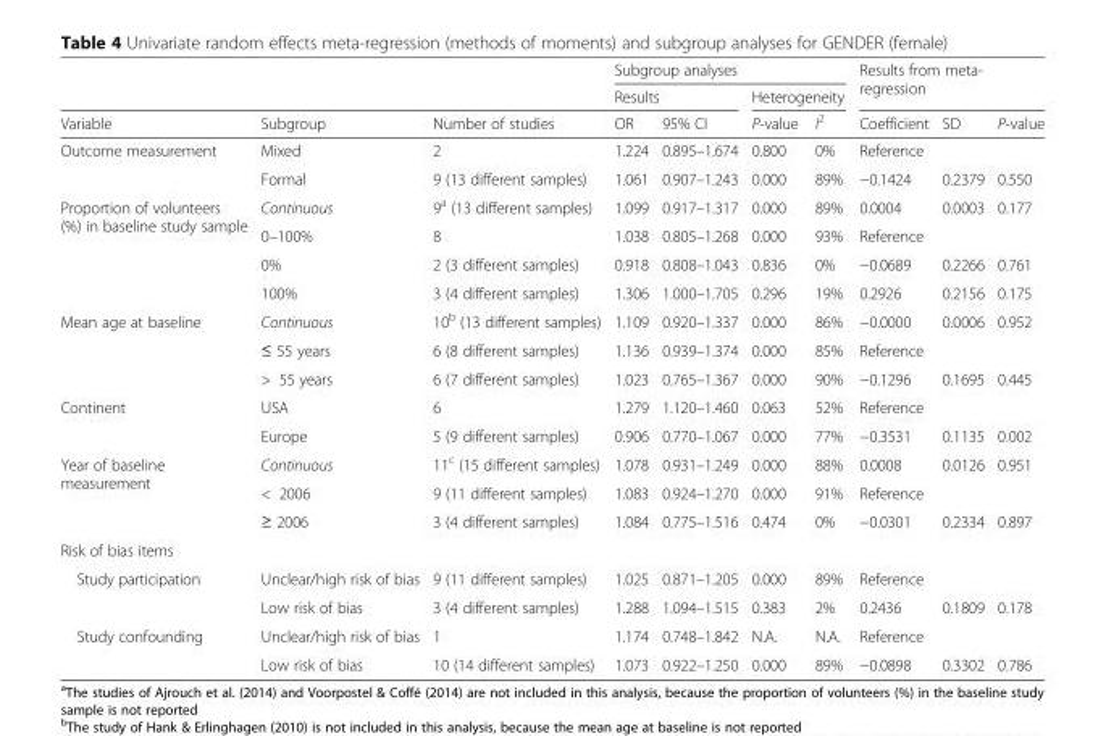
<table><thead><tr><td rowspan="3">Variable</td><td rowspan="3">Subgroup</td><td rowspan="3">Number of studies</td><td colspan="4">Subgroup analyses</td><td rowspan="2" colspan="3">Results from meta- regression</td></tr><tr><td colspan="2">Results</td><td colspan="2">Heterogeneity</td></tr><tr><td>OR</td><td>95% CI</td><td>P-value</td><td>I<sup>2</sup></td><td>Coefficient</td><td>SD</td><td>P-value</td></tr></thead><tbody><tr><td rowspan="2">Outcome measurement</td><td>Mixed</td><td>2</td><td>1.224</td><td>0.895–1.674</td><td>0.800</td><td>0%</td><td colspan="3">Reference</td></tr><tr><td>Formal</td><td>9 (13 different samples)</td><td>1.061</td><td>0.907–1.243</td><td>0.000</td><td>89%</td><td>−0.1424</td><td>0.2379</td><td>0.550</td></tr><tr><td rowspan="4">Proportion of volunteers (%) in baseline study sample</td><td>Continuous</td><td>9<sup>a</sup> (13 different samples)</td><td>1.099</td><td>0.917–1.317</td><td>0.000</td><td>89%</td><td>0.0004</td><td>0.0003</td><td>0.177</td></tr><tr><td>0–100%</td><td>8</td><td>1.038</td><td>0.805–1.268</td><td>0.000</td><td>93%</td><td>Reference</td><td></td><td></td></tr><tr><td>0%</td><td>2 (3 different samples)</td><td>0.918</td><td>0.808–1.043</td><td>0.836</td><td>0%</td><td>−0.0689</td><td>0.2266</td><td>0.761</td></tr><tr><td>100%</td><td>3 (4 different samples)</td><td>1.306</td><td>1.000–1.705</td><td>0.296</td><td>19%</td><td>0.2926</td><td>0.2156</td><td>0.175</td></tr><tr><td rowspan="3">Mean age at baseline</td><td>Continuous</td><td>10<sup>b</sup> (13 different samples)</td><td>1.109</td><td>0.920–1.337</td><td>0.000</td><td>86%</td><td>−0.0000</td><td>0.0006</td><td>0.952</td></tr><tr><td>≤ 55 years</td><td>6 (8 different samples)</td><td>1.136</td><td>0.939–1.374</td><td>0.000</td><td>85%</td><td>Reference</td><td></td><td></td></tr><tr><td>&gt; 55 years</td><td>6 (7 different samples)</td><td>1.023</td><td>0.765–1.367</td><td>0.000</td><td>90%</td><td>−0.1296</td><td>0.1695</td><td>0.445</td></tr><tr><td rowspan="2">Continent</td><td>USA</td><td>6</td><td>1.279</td><td>1.120–1.460</td><td>0.063</td><td>52%</td><td colspan="3">Reference</td></tr><tr><td>Europe</td><td>5 (9 different samples)</td><td>0.906</td><td>0.770–1.067</td><td>0.000</td><td>77%</td><td>−0.3531</td><td>0.1135</td><td>0.002</td></tr><tr><td rowspan="3">Year of baseline measurement</td><td>Continuous</td><td>11<sup>c</sup> (15 different samples)</td><td>1.078</td><td>0.931–1.249</td><td>0.000</td><td>88%</td><td>0.0008</td><td>0.0126</td><td>0.951</td></tr><tr><td>&lt; 2006</td><td>9 (11 different samples)</td><td>1.083</td><td>0.924–1.270</td><td>0.000</td><td>91%</td><td>Reference</td><td></td><td></td></tr><tr><td>≥ 2006</td><td>3 (4 different samples)</td><td>1.084</td><td>0.775–1.516</td><td>0.474</td><td>0%</td><td>−0.0301</td><td>0.2334</td><td>0.897</td></tr><tr><td colspan="10">Risk of bias items</td></tr><tr><td rowspan="2">Study participation</td><td>Unclear/high risk of bias</td><td>9 (11 different samples)</td><td>1.025</td><td>0.871–1.205</td><td>0.000</td><td>89%</td><td colspan="3">Reference</td></tr><tr><td>Low risk of bias</td><td>3 (4 different samples)</td><td>1.288</td><td>1.094–1.515</td><td>0.383</td><td>2%</td><td>0.2436</td><td>0.1809</td><td>0.178</td></tr><tr><td rowspan="2">Study confounding</td><td>Unclear/high risk of bias</td><td>1</td><td>1.174</td><td>0.748–1.842</td><td>N.A.</td><td>N.A.</td><td colspan="3">Reference</td></tr><tr><td>Low risk of bias</td><td>10 (14 different samples)</td><td>1.073</td><td>0.922–1.250</td><td>0.000</td><td>89%</td><td>−0.0898</td><td>0.3302</td><td>0.786</td></tr></tbody></table>